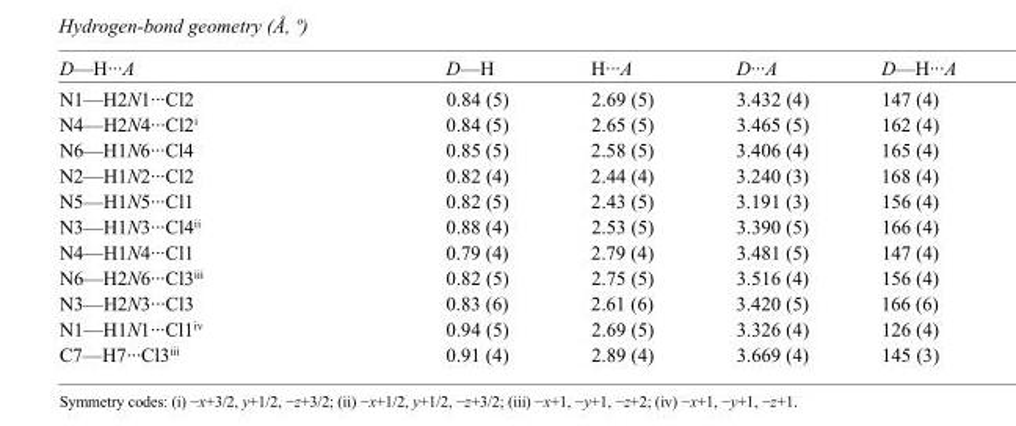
<table><tbody><tr><td>D—H···A</td><td>D—H</td><td>H···A</td><td>D···A</td><td>D—H···A</td></tr><tr><td>N1—H2N1···Cl2</td><td>0.84 (5)</td><td>2.69 (5)</td><td>3.432 (4)</td><td>147 (4)</td></tr><tr><td>N4—H2N4···Cl2<sup>i</sup></td><td>0.84 (5)</td><td>2.65 (5)</td><td>3.465 (5)</td><td>162 (4)</td></tr><tr><td>N6—H1N6···Cl4</td><td>0.85 (5)</td><td>2.58 (5)</td><td>3.406 (4)</td><td>165 (4)</td></tr><tr><td>N2—H1N2···Cl2</td><td>0.82 (4)</td><td>2.44 (4)</td><td>3.240 (3)</td><td>168 (4)</td></tr><tr><td>N5—H1N5···Cl1</td><td>0.82 (5)</td><td>2.43 (5)</td><td>3.191 (3)</td><td>156 (4)</td></tr><tr><td>N3—H1N3···Cl4<sup>ii</sup></td><td>0.88 (4)</td><td>2.53 (5)</td><td>3.390 (5)</td><td>166 (4)</td></tr><tr><td>N4—H1N4···Cl1</td><td>0.79 (4)</td><td>2.79 (4)</td><td>3.481 (5)</td><td>147 (4)</td></tr><tr><td>N6—H2N6···Cl3<sup>iii</sup></td><td>0.82 (5)</td><td>2.75 (5)</td><td>3.516 (4)</td><td>156 (4)</td></tr><tr><td>N3—H2N3···Cl3</td><td>0.83 (6)</td><td>2.61 (6)</td><td>3.420 (5)</td><td>166 (6)</td></tr><tr><td>N1—H1N1···Cl1<sup>iv</sup></td><td>0.94 (5)</td><td>2.69 (5)</td><td>3.326 (4)</td><td>126 (4)</td></tr><tr><td>C7—H7···Cl3<sup>iii</sup></td><td>0.91 (4)</td><td>2.89 (4)</td><td>3.669 (4)</td><td>145 (3)</td></tr></tbody></table>